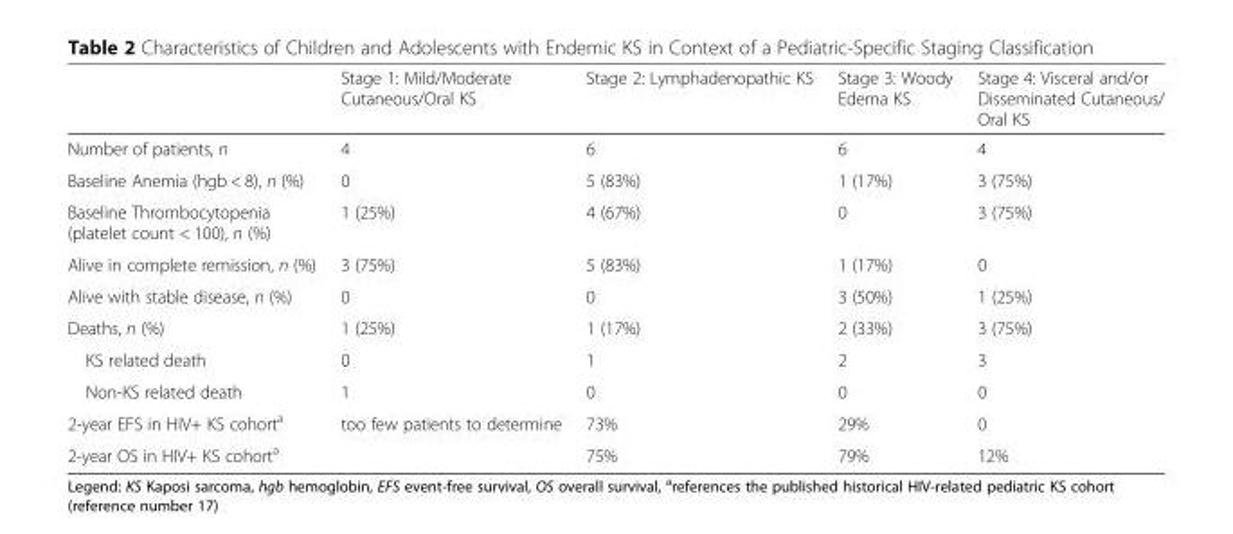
<table><thead><tr><td></td><td>Stage 1: Mild/Moderate Cutaneous/Oral KS</td><td>Stage 2: Lymphadenopathic KS</td><td>Stage 3: Woody Edema KS</td><td>Stage 4: Visceral and/or Disseminated Cutaneous/ Oral KS</td></tr></thead><tbody><tr><td>Number of patients, n</td><td>4</td><td>6</td><td>6</td><td>4</td></tr><tr><td>Baseline Anemia (hgb &lt; 8), n (%)</td><td>0</td><td>5 (83%)</td><td>1 (17%)</td><td>3 (75%)</td></tr><tr><td>Baseline Thrombocytopenia (platelet count &lt; 100), n (%)</td><td>1 (25%)</td><td>4 (67%)</td><td>0</td><td>3 (75%)</td></tr><tr><td>Alive in complete remission, n (%)</td><td>3 (75%)</td><td>5 (83%)</td><td>1 (17%)</td><td>0</td></tr><tr><td>Alive with stable disease, n (%)</td><td>0</td><td>0</td><td>3 (50%)</td><td>1 (25%)</td></tr><tr><td>Deaths, n (%)</td><td>1 (25%)</td><td>1 (17%)</td><td>2 (33%)</td><td>3 (75%)</td></tr><tr><td>KS related death</td><td>0</td><td>1</td><td>2</td><td>3</td></tr><tr><td>Non-KS related death</td><td>1</td><td>0</td><td>0</td><td>0</td></tr><tr><td>2-year EFS in HIV+ KS cohort<sup>a</sup></td><td rowspan="2">too few patients to determine</td><td>73%</td><td>29%</td><td>0</td></tr><tr><td>2-year OS in HIV+ KS cohort<sup>a</sup></td><td>75%</td><td>79%</td><td>12%</td></tr></tbody></table>